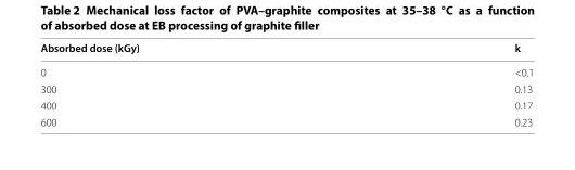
<table><thead><tr><td>Absorbed dose (kGy)</td><td>k</td></tr></thead><tbody><tr><td>0</td><td>&lt;0.1</td></tr><tr><td>300</td><td>0.13</td></tr><tr><td>400</td><td>0.17</td></tr><tr><td>600</td><td>0.23</td></tr></tbody></table>